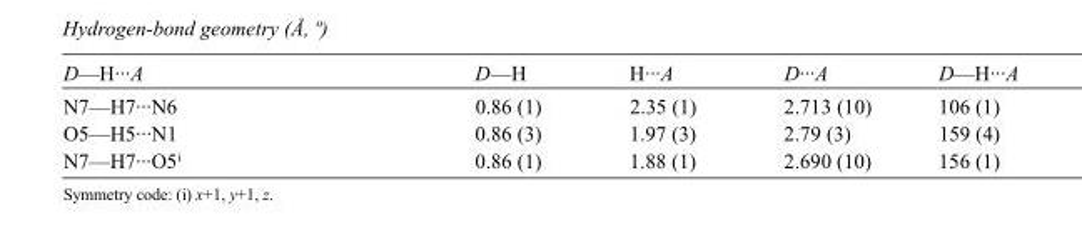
<table><tbody><tr><td>D—H···A</td><td>D—H</td><td>H···A</td><td>D···A</td><td>D—H···A</td></tr><tr><td>N7—H7···N6</td><td>0.86 (1)</td><td>2.35 (1)</td><td>2.713 (10)</td><td>106 (1)</td></tr><tr><td>O5—H5···N1</td><td>0.86 (3)</td><td>1.97 (3)</td><td>2.79 (3)</td><td>159 (4)</td></tr><tr><td>N7—H7···O5<sup>i</sup></td><td>0.86 (1)</td><td>1.88 (1)</td><td>2.690 (10)</td><td>156 (1)</td></tr></tbody></table>